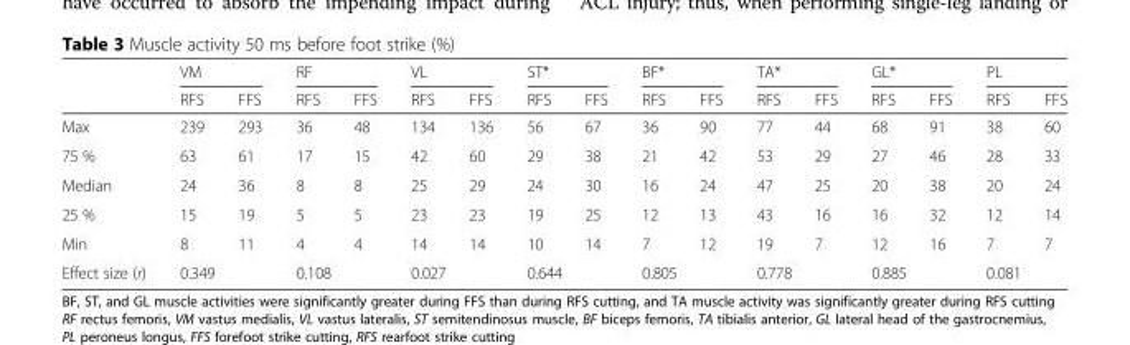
<table><thead><tr><td rowspan="2"></td><td colspan="2">VM</td><td colspan="2">RF</td><td colspan="2">VL</td><td colspan="2">ST*</td><td colspan="2">BF*</td><td colspan="2">TA*</td><td colspan="2">GL*</td><td colspan="2">PL</td></tr><tr><td>RFS</td><td>FFS</td><td>RFS</td><td>FFS</td><td>RFS</td><td>FFS</td><td>RFS</td><td>FFS</td><td>RFS</td><td>FFS</td><td>RFS</td><td>FFS</td><td>RFS</td><td>FFS</td><td>RFS</td><td>FFS</td></tr></thead><tbody><tr><td>Max</td><td>239</td><td>293</td><td>36</td><td>48</td><td>134</td><td>136</td><td>56</td><td>67</td><td>36</td><td>90</td><td>77</td><td>44</td><td>68</td><td>91</td><td>38</td><td>60</td></tr><tr><td>75 %</td><td>63</td><td>61</td><td>17</td><td>15</td><td>42</td><td>60</td><td>29</td><td>38</td><td>21</td><td>42</td><td>53</td><td>29</td><td>27</td><td>46</td><td>28</td><td>33</td></tr><tr><td>Median</td><td>24</td><td>36</td><td>8</td><td>8</td><td>25</td><td>29</td><td>24</td><td>30</td><td>16</td><td>24</td><td>47</td><td>25</td><td>20</td><td>38</td><td>20</td><td>24</td></tr><tr><td>25 %</td><td>15</td><td>19</td><td>5</td><td>5</td><td>23</td><td>23</td><td>19</td><td>25</td><td>12</td><td>13</td><td>43</td><td>16</td><td>16</td><td>32</td><td>12</td><td>14</td></tr><tr><td>Min</td><td>8</td><td>11</td><td>4</td><td>4</td><td>14</td><td>14</td><td>10</td><td>14</td><td>7</td><td>12</td><td>19</td><td>7</td><td>12</td><td>16</td><td>7</td><td>7</td></tr><tr><td>Effect size (r)</td><td colspan="2">0.349</td><td colspan="2">0.108</td><td colspan="2">0.027</td><td colspan="2">0.644</td><td colspan="2">0.805</td><td colspan="2">0.778</td><td colspan="2">0.885</td><td colspan="2">0.081</td></tr></tbody></table>